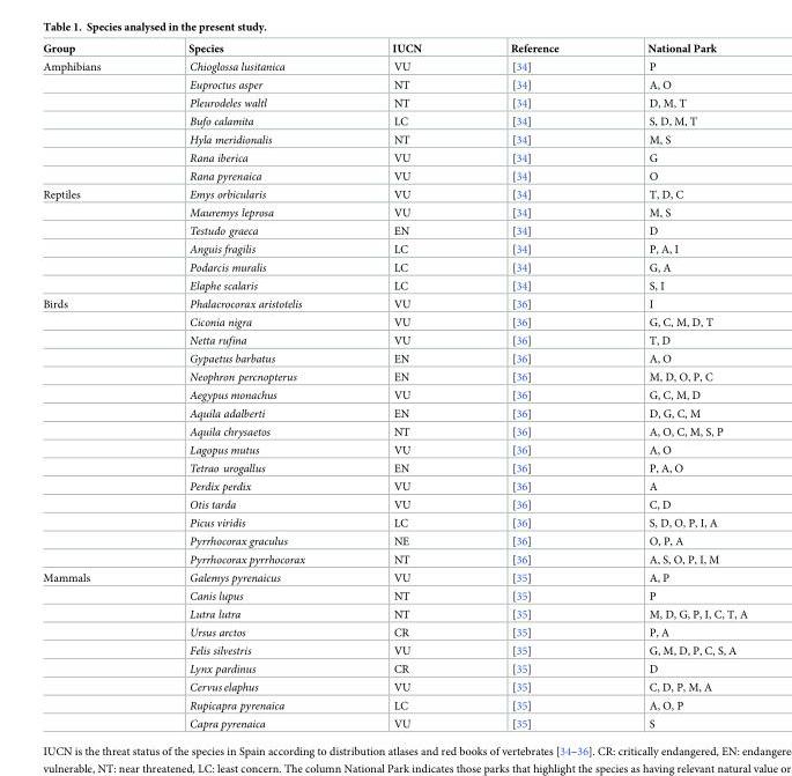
<table><thead><tr><td>Group</td><td>Species</td><td>IUCN</td><td>Reference</td><td>National Park</td></tr></thead><tbody><tr><td rowspan="7">Amphibians</td><td>Chioglossa lusitanica</td><td>VU</td><td>[34]</td><td>P</td></tr><tr><td>Euproctus asper</td><td>NT</td><td>[34]</td><td>A, O</td></tr><tr><td>Pleurodeles waltl</td><td>NT</td><td>[34]</td><td>D, M, T</td></tr><tr><td>Bufo calamita</td><td>LC</td><td>[34]</td><td>S, D, M, T</td></tr><tr><td>Hyla meridionalis</td><td>NT</td><td>[34]</td><td>M, S</td></tr><tr><td>Rana iberica</td><td>VU</td><td>[34]</td><td>G</td></tr><tr><td>Rana pyrenaica</td><td>VU</td><td>[34]</td><td>O</td></tr><tr><td rowspan="6">Reptiles</td><td>Emys orbicularis</td><td>VU</td><td>[34]</td><td>T, D, C</td></tr><tr><td>Mauremys leprosa</td><td>VU</td><td>[34]</td><td>M, S</td></tr><tr><td>Testudo graeca</td><td>EN</td><td>[34]</td><td>D</td></tr><tr><td>Anguis fragilis</td><td>LC</td><td>[34]</td><td>P, A, I</td></tr><tr><td>Podarcis muralis</td><td>LC</td><td>[34]</td><td>G, A</td></tr><tr><td>Elaphe scalaris</td><td>LC</td><td>[34]</td><td>S, I</td></tr><tr><td rowspan="15">Birds</td><td>Phalacrocorax aristotelis</td><td>VU</td><td>[36]</td><td>I</td></tr><tr><td>Ciconia nigra</td><td>VU</td><td>[36]</td><td>G, C, M, D, T</td></tr><tr><td>Netta rufina</td><td>VU</td><td>[36]</td><td>T, D</td></tr><tr><td>Gypaetus barbatus</td><td>EN</td><td>[36]</td><td>A, O</td></tr><tr><td>Neophron percnopterus</td><td>EN</td><td>[36]</td><td>M, D, O, P, C</td></tr><tr><td>Aegypus monachus</td><td>VU</td><td>[36]</td><td>G, C, M, D</td></tr><tr><td>Aquila adalberti</td><td>EN</td><td>[36]</td><td>D, G, C, M</td></tr><tr><td>Aquila chrysaetos</td><td>NT</td><td>[36]</td><td>A, O, C, M, S, P</td></tr><tr><td>Lagopus mutus</td><td>VU</td><td>[36]</td><td>A, O</td></tr><tr><td>Tetrao urogallus</td><td>EN</td><td>[36]</td><td>P, A, O</td></tr><tr><td>Perdix perdix</td><td>VU</td><td>[36]</td><td>A</td></tr><tr><td>Otis tarda</td><td>VU</td><td>[36]</td><td>C, D</td></tr><tr><td>Picus viridis</td><td>LC</td><td>[36]</td><td>S, D, O, P, I, A</td></tr><tr><td>Pyrrhocorax graculus</td><td>NE</td><td>[36]</td><td>O, P, A</td></tr><tr><td>Pyrrhocorax pyrrhocorax</td><td>NT</td><td>[36]</td><td>A, S, O, P, I, M</td></tr><tr><td rowspan="9">Mammals</td><td>Galemys pyrenaicus</td><td>VU</td><td>[35]</td><td>A, P</td></tr><tr><td>Canis lupus</td><td>NT</td><td>[35]</td><td>P</td></tr><tr><td>Lutra lutra</td><td>NT</td><td>[35]</td><td>M, D, G, P, I, C, T, A</td></tr><tr><td>Ursus arctos</td><td>CR</td><td>[35]</td><td>P, A</td></tr><tr><td>Felis silvestris</td><td>VU</td><td>[35]</td><td>G, M, D, P, C, S, A</td></tr><tr><td>Lynx pardinus</td><td>CR</td><td>[35]</td><td>D</td></tr><tr><td>Cervus elaphus</td><td>VU</td><td>[35]</td><td>C, D, P, M, A</td></tr><tr><td>Rupicapra pyrenaica</td><td>LC</td><td>[35]</td><td>A, O, P</td></tr><tr><td>Capra pyrenaica</td><td>VU</td><td>[35]</td><td>S</td></tr></tbody></table>